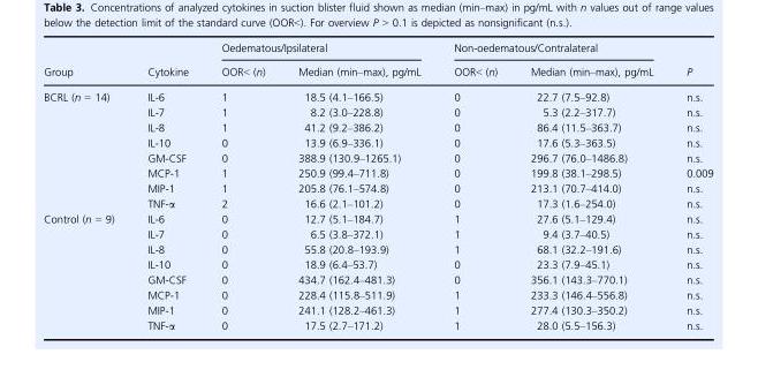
<table><thead><tr><td rowspan="2">Group</td><td rowspan="2">Cytokine</td><td colspan="2">Oedematous/Ipsilateral</td><td colspan="2">Non-oedematous/Contralateral</td><td rowspan="2">P</td></tr><tr><td>OOR&lt; (n)</td><td>Median (min–max), pg/mL</td><td>OOR&lt; (n)</td><td>Median (min–max), pg/mL</td></tr></thead><tbody><tr><td rowspan="8">BCRL (n = 14)</td><td>IL-6</td><td>1</td><td>18.5 (4.1–166.5)</td><td>0</td><td>22.7 (7.5–92.8)</td><td>n.s.</td></tr><tr><td>IL-7</td><td>1</td><td>8.2 (3.0–228.8)</td><td>0</td><td>5.3 (2.2–317.7)</td><td>n.s.</td></tr><tr><td>IL-8</td><td>1</td><td>41.2 (9.2–386.2)</td><td>0</td><td>86.4 (11.5–363.7)</td><td>n.s.</td></tr><tr><td>IL-10</td><td>0</td><td>13.9 (6.9–336.1)</td><td>0</td><td>17.6 (5.3–363.5)</td><td>n.s.</td></tr><tr><td>GM-CSF</td><td>0</td><td>388.9 (130.9–1265.1)</td><td>0</td><td>296.7 (76.0–1486.8)</td><td>n.s.</td></tr><tr><td>MCP-1</td><td>1</td><td>250.9 (99.4–711.8)</td><td>0</td><td>199.8 (38.1–298.5)</td><td>0.009</td></tr><tr><td>MIP-1</td><td>1</td><td>205.8 (76.1–574.8)</td><td>0</td><td>213.1 (70.7–414.0)</td><td>n.s.</td></tr><tr><td>TNF-α</td><td>2</td><td>16.6 (2.1–101.2)</td><td>0</td><td>17.3 (1.6–254.0)</td><td>n.s.</td></tr><tr><td rowspan="8">Control (n = 9)</td><td>IL-6</td><td>0</td><td>12.7 (5.1–184.7)</td><td>1</td><td>27.6 (5.1–129.4)</td><td>n.s.</td></tr><tr><td>IL-7</td><td>0</td><td>6.5 (3.8–372.1)</td><td>1</td><td>9.4 (3.7–40.5)</td><td>n.s.</td></tr><tr><td>IL-8</td><td>0</td><td>55.8 (20.8–193.9)</td><td>1</td><td>68.1 (32.2–191.6)</td><td>n.s.</td></tr><tr><td>IL-10</td><td>0</td><td>18.9 (6.4–53.7)</td><td>0</td><td>23.3 (7.9–45.1)</td><td>n.s.</td></tr><tr><td>GM-CSF</td><td>0</td><td>434.7 (162.4–481.3)</td><td>0</td><td>356.1 (143.3–770.1)</td><td>n.s.</td></tr><tr><td>MCP-1</td><td>0</td><td>228.4 (115.8–511.9)</td><td>1</td><td>233.3 (146.4–556.8)</td><td>n.s.</td></tr><tr><td>MIP-1</td><td>0</td><td>241.1 (128.2–461.3)</td><td>1</td><td>277.4 (130.3–350.2)</td><td>n.s.</td></tr><tr><td>TNF-α</td><td>0</td><td>17.5 (2.7–171.2)</td><td>1</td><td>28.0 (5.5–156.3)</td><td>n.s.</td></tr></tbody></table>